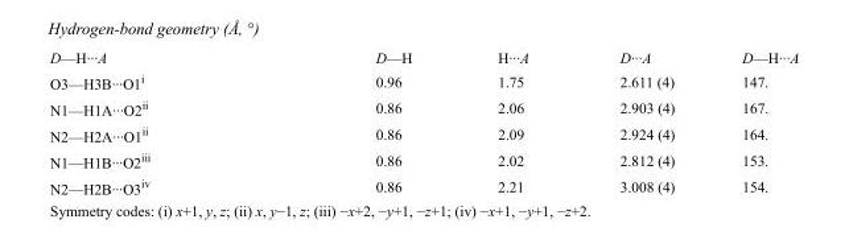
<table><tbody><tr><td>D—H···A</td><td>D—H</td><td>H···A</td><td>D···A</td><td>D—H···A</td></tr><tr><td>O3—H3B···O1<sup>i</sup></td><td>0.96</td><td>1.75</td><td>2.611 (4)</td><td>147.</td></tr><tr><td>N1—H1A···O2<sup>ii</sup></td><td>0.86</td><td>2.06</td><td>2.903 (4)</td><td>167.</td></tr><tr><td>N2—H2A···O1<sup>ii</sup></td><td>0.86</td><td>2.09</td><td>2.924 (4)</td><td>164.</td></tr><tr><td>N1—H1B···O2<sup>iii</sup></td><td>0.86</td><td>2.02</td><td>2.812 (4)</td><td>153.</td></tr><tr><td>N2—H2B···O3<sup>iv</sup></td><td>0.86</td><td>2.21</td><td>3.008 (4)</td><td>154.</td></tr></tbody></table>